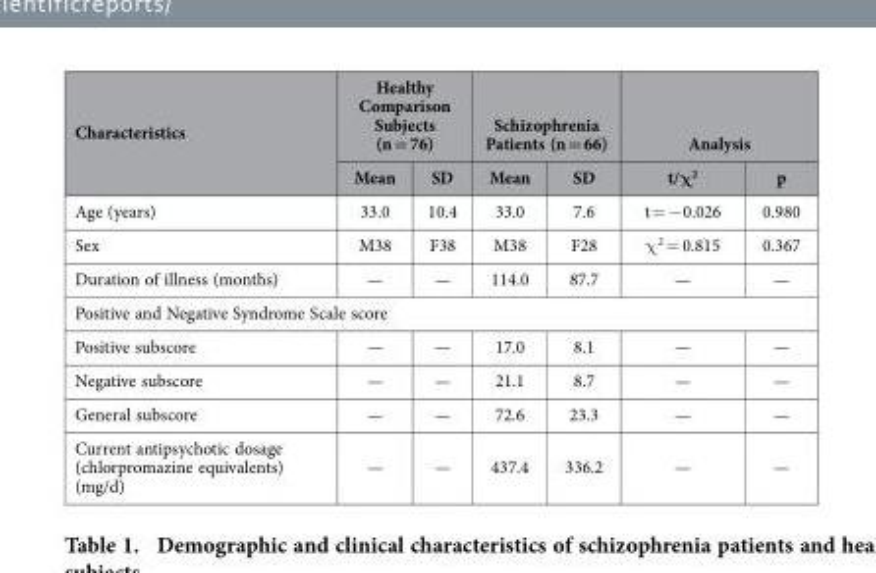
<table><thead><tr><td rowspan="2">Characteristics</td><td colspan="2">Healthy Comparison Subjects (n = 76)</td><td colspan="2">Schizophrenia Patients (n = 66)</td><td colspan="2">Analysis</td></tr><tr><td>Mean</td><td>SD</td><td>Mean</td><td>SD</td><td>t/χ<sup>2</sup></td><td>p</td></tr></thead><tbody><tr><td>Age (years)</td><td>33.0</td><td>10.4</td><td>33.0</td><td>7.6</td><td>t = − 0.026</td><td>0.980</td></tr><tr><td>Sex</td><td>M38</td><td>F38</td><td>M38</td><td>F28</td><td>χ <sup>2</sup> = 0.815</td><td>0.367</td></tr><tr><td>Duration of illness (months)</td><td>—</td><td>—</td><td>114.0</td><td>87.7</td><td>—</td><td>—</td></tr><tr><td colspan="7">Positive and Negative Syndrome Scale score</td></tr><tr><td>Positive subscore</td><td>—</td><td>—</td><td>17.0</td><td>8.1</td><td>—</td><td>—</td></tr><tr><td>Negative subscore</td><td>—</td><td>—</td><td>21.1</td><td>8.7</td><td>—</td><td>—</td></tr><tr><td>General subscore</td><td>—</td><td>—</td><td>72.6</td><td>23.3</td><td>—</td><td>—</td></tr><tr><td>Current antipsychotic dosage (chlorpromazine equivalents) (mg/d)</td><td>—</td><td>—</td><td>437.4</td><td>336.2</td><td>—</td><td>—</td></tr></tbody></table>